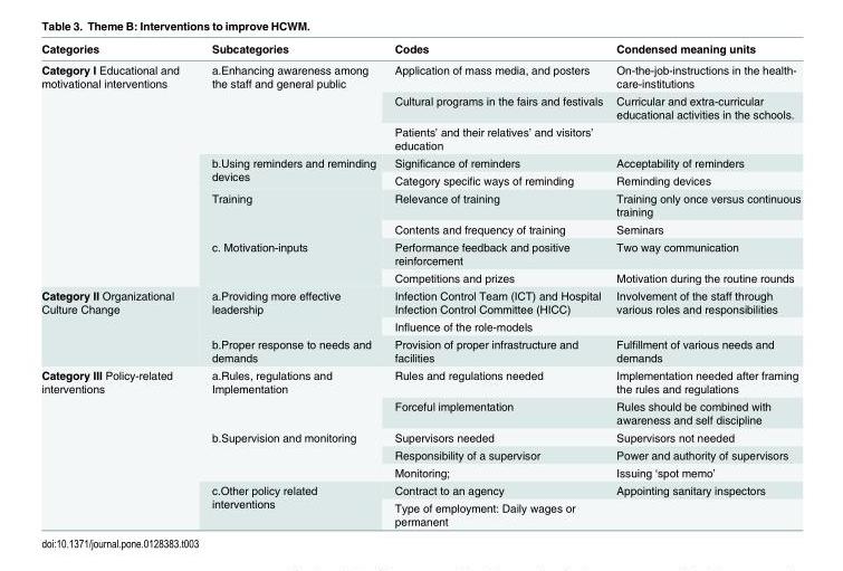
<table><thead><tr><td>Categories</td><td>Subcategories</td><td>Codes</td><td>Condensed meaning units</td></tr></thead><tbody><tr><td rowspan="9">Category I Educational and motivational interventions</td><td rowspan="3">a.Enhancing awareness among the staff and general public</td><td>Application of mass media, and posters</td><td>On-the-job-instructions in the health- care-institutions</td></tr><tr><td>Cultural programs in the fairs and festivals</td><td>Curricular and extra-curricular educational activities in the schools.</td></tr><tr><td>Patients’ and their relatives’ and visitors’ education</td><td></td></tr><tr><td rowspan="2">b.Using reminders and reminding devices</td><td>Significance of reminders</td><td>Acceptability of reminders</td></tr><tr><td>Category specific ways of reminding</td><td>Reminding devices</td></tr><tr><td rowspan="2">Training</td><td>Relevance of training</td><td>Training only once versus continuous training</td></tr><tr><td>Contents and frequency of training</td><td>Seminars</td></tr><tr><td rowspan="2">c. Motivation-inputs</td><td>Performance feedback and positive reinforcement</td><td>Two way communication</td></tr><tr><td>Competitions and prizes</td><td>Motivation during the routine rounds</td></tr><tr><td rowspan="3">Category II Organizational Culture Change</td><td rowspan="2">a.Providing more effective leadership</td><td>Infection Control Team (ICT) and Hospital Infection Control Committee (HICC)</td><td>Involvement of the staff through various roles and responsibilities</td></tr><tr><td>Influence of the role-models</td><td></td></tr><tr><td>b.Proper response to needs and demands</td><td>Provision of proper infrastructure and facilities</td><td>Fulfillment of various needs and demands</td></tr><tr><td rowspan="7">Category III Policy-related interventions</td><td rowspan="2">a.Rules, regulations and Implementation</td><td>Rules and regulations needed</td><td>Implementation needed after framing the rules and regulations</td></tr><tr><td>Forceful implementation</td><td>Rules should be combined with awareness and self discipline</td></tr><tr><td rowspan="3">b.Supervision and monitoring</td><td>Supervisors needed</td><td>Supervisors not needed</td></tr><tr><td>Responsibility of a supervisor</td><td>Power and authority of supervisors</td></tr><tr><td>Monitoring;</td><td>Issuing ‘spot memo’</td></tr><tr><td rowspan="2">c.Other policy related interventions</td><td>Contract to an agency</td><td>Appointing sanitary inspectors</td></tr><tr><td>Type of employment: Daily wages or permanent</td><td></td></tr></tbody></table>